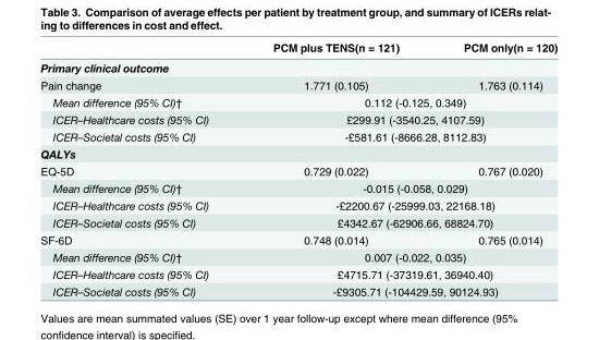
<table><thead><tr><td></td><td>PCM plus TENS(n = 121)</td><td>PCM only(n = 120)</td></tr></thead><tbody><tr><td colspan="3">Primary clinical outcome</td></tr><tr><td>Pain change</td><td>1.771 (0.105)</td><td>1.763 (0.114)</td></tr><tr><td>Mean difference (95% CI)†</td><td colspan="2">0.112 (-0.125, 0.349)</td></tr><tr><td>ICER–Healthcare costs (95% CI)</td><td colspan="2">£299.91 (-3540.25, 4107.59)</td></tr><tr><td>ICER–Societal costs (95% CI)</td><td colspan="2">-£581.61 (-8666.28, 8112.83)</td></tr><tr><td colspan="3">QALYs</td></tr><tr><td>EQ-5D</td><td>0.729 (0.022)</td><td>0.767 (0.020)</td></tr><tr><td>Mean difference (95% CI)†</td><td colspan="2">-0.015 (-0.058, 0.029)</td></tr><tr><td>ICER–Healthcare costs (95% CI)</td><td colspan="2">-£2200.67 (-25999.03, 22168.18)</td></tr><tr><td>ICER–Societal costs (95% CI)</td><td colspan="2">£4342.67 (-62906.66, 68824.70)</td></tr><tr><td>SF-6D</td><td>0.748 (0.014)</td><td>0.765 (0.014)</td></tr><tr><td>Mean difference (95% CI)†</td><td colspan="2">0.007 (-0.022, 0.035)</td></tr><tr><td>ICER–Healthcare costs (95% CI)</td><td colspan="2">£4715.71 (-37319.61, 36940.40)</td></tr><tr><td>ICER–Societal costs (95% CI)</td><td colspan="2">-£9305.71 (-104429.59, 90124.93)</td></tr></tbody></table>